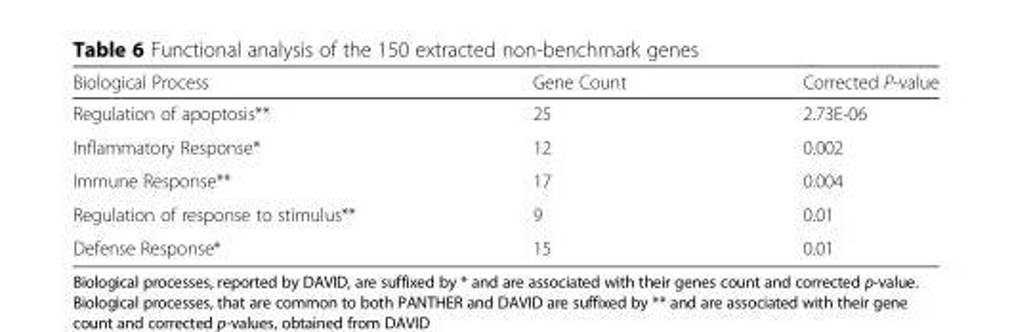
<table><thead><tr><td>Biological Process</td><td>Gene Count</td><td>Corrected P-value</td></tr></thead><tbody><tr><td>Regulation of apoptosis**</td><td>25</td><td>2.73E-06</td></tr><tr><td>Inflammatory Response*</td><td>12</td><td>0.002</td></tr><tr><td>Immune Response**</td><td>17</td><td>0.004</td></tr><tr><td>Regulation of response to stimulus**</td><td>9</td><td>0.01</td></tr><tr><td>Defense Response*</td><td>15</td><td>0.01</td></tr></tbody></table>